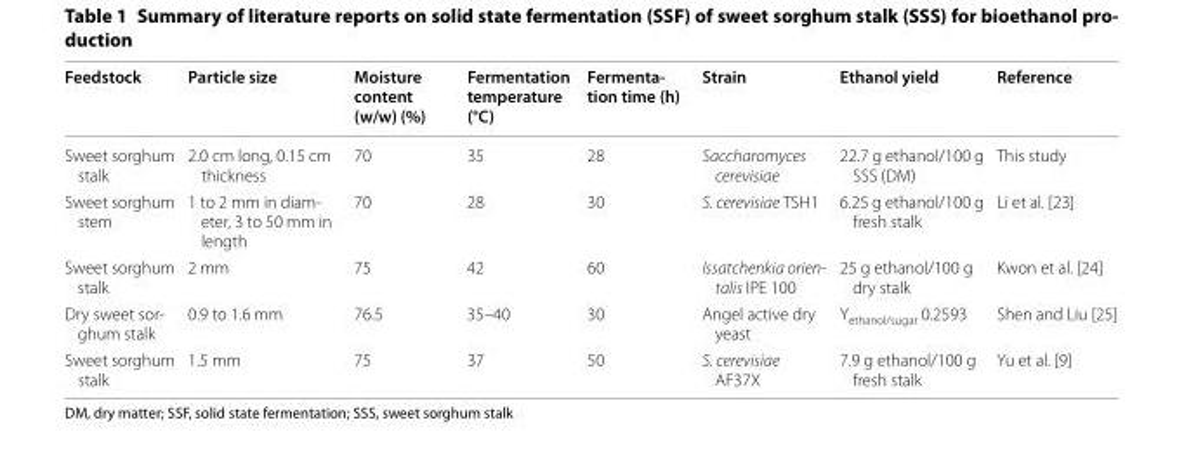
<table><thead><tr><td>Feedstock</td><td>Particle size</td><td>Moisture content (w/w) (%)</td><td>Fermentation temperature (°C)</td><td>Fermenta- tion time (h)</td><td>Strain</td><td>Ethanol yield</td><td>Reference</td></tr></thead><tbody><tr><td>Sweet sorghum stalk</td><td>2.0 cm long, 0.15 cm thickness</td><td>70</td><td>35</td><td>28</td><td>Saccharomyces cerevisiae</td><td>22.7 g ethanol/100 g SSS (DM)</td><td>This study</td></tr><tr><td>Sweet sorghum stem</td><td>1 to 2 mm in diam‑ eter, 3 to 50 mm in length</td><td>70</td><td>28</td><td>30</td><td>S. cerevisiae TSH1</td><td>6.25 g ethanol/100 g fresh stalk</td><td>Li et al. [23]</td></tr><tr><td>Sweet sorghum stalk</td><td>2 mm</td><td>75</td><td>42</td><td>60</td><td>Issatchenkia orien- talis IPE 100</td><td>25 g ethanol/100 g dry stalk</td><td>Kwon et al. [24]</td></tr><tr><td>Dry sweet sor‑ ghum stalk</td><td>0.9 to 1.6 mm</td><td>76.5</td><td>35–40</td><td>30</td><td>Angel active dry yeast</td><td>Y<sub>ethanol/sugar</sub> 0.2593</td><td>Shen and Liu [25]</td></tr><tr><td>Sweet sorghum stalk</td><td>1.5 mm</td><td>75</td><td>37</td><td>50</td><td>S. cerevisiae AF37X</td><td>7.9 g ethanol/100 g fresh stalk</td><td>Yu et al. [9]</td></tr></tbody></table>